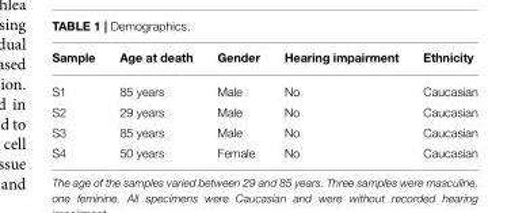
<table><thead><tr><td>Sample</td><td>Age at death</td><td>Gender</td><td>Hearing impairment</td><td>Ethnicity</td></tr></thead><tbody><tr><td>S1</td><td>85 years</td><td>Male</td><td>No</td><td>Caucasian</td></tr><tr><td>S2</td><td>29 years</td><td>Male</td><td>No</td><td>Caucasian</td></tr><tr><td>S3</td><td>85 years</td><td>Male</td><td>No</td><td>Caucasian</td></tr><tr><td>S4</td><td>50 years</td><td>Female</td><td>No</td><td>Caucasian</td></tr></tbody></table>